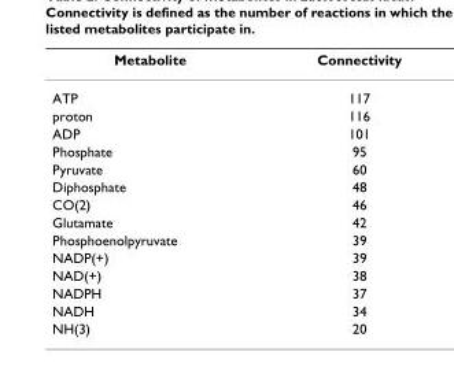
<table><thead><tr><td>Metabolite</td><td>Connectivity</td></tr></thead><tbody><tr><td>ATP</td><td>117</td></tr><tr><td>proton</td><td>116</td></tr><tr><td>ADP</td><td>101</td></tr><tr><td>Phosphate</td><td>95</td></tr><tr><td>Pyruvate</td><td>60</td></tr><tr><td>Diphosphate</td><td>48</td></tr><tr><td>CO(2)</td><td>46</td></tr><tr><td>Glutamate</td><td>42</td></tr><tr><td>Phosphoenolpyruvate</td><td>39</td></tr><tr><td>NADP(+)</td><td>39</td></tr><tr><td>NAD(+)</td><td>38</td></tr><tr><td>NADPH</td><td>37</td></tr><tr><td>NADH</td><td>34</td></tr><tr><td>NH(3)</td><td>20</td></tr></tbody></table>